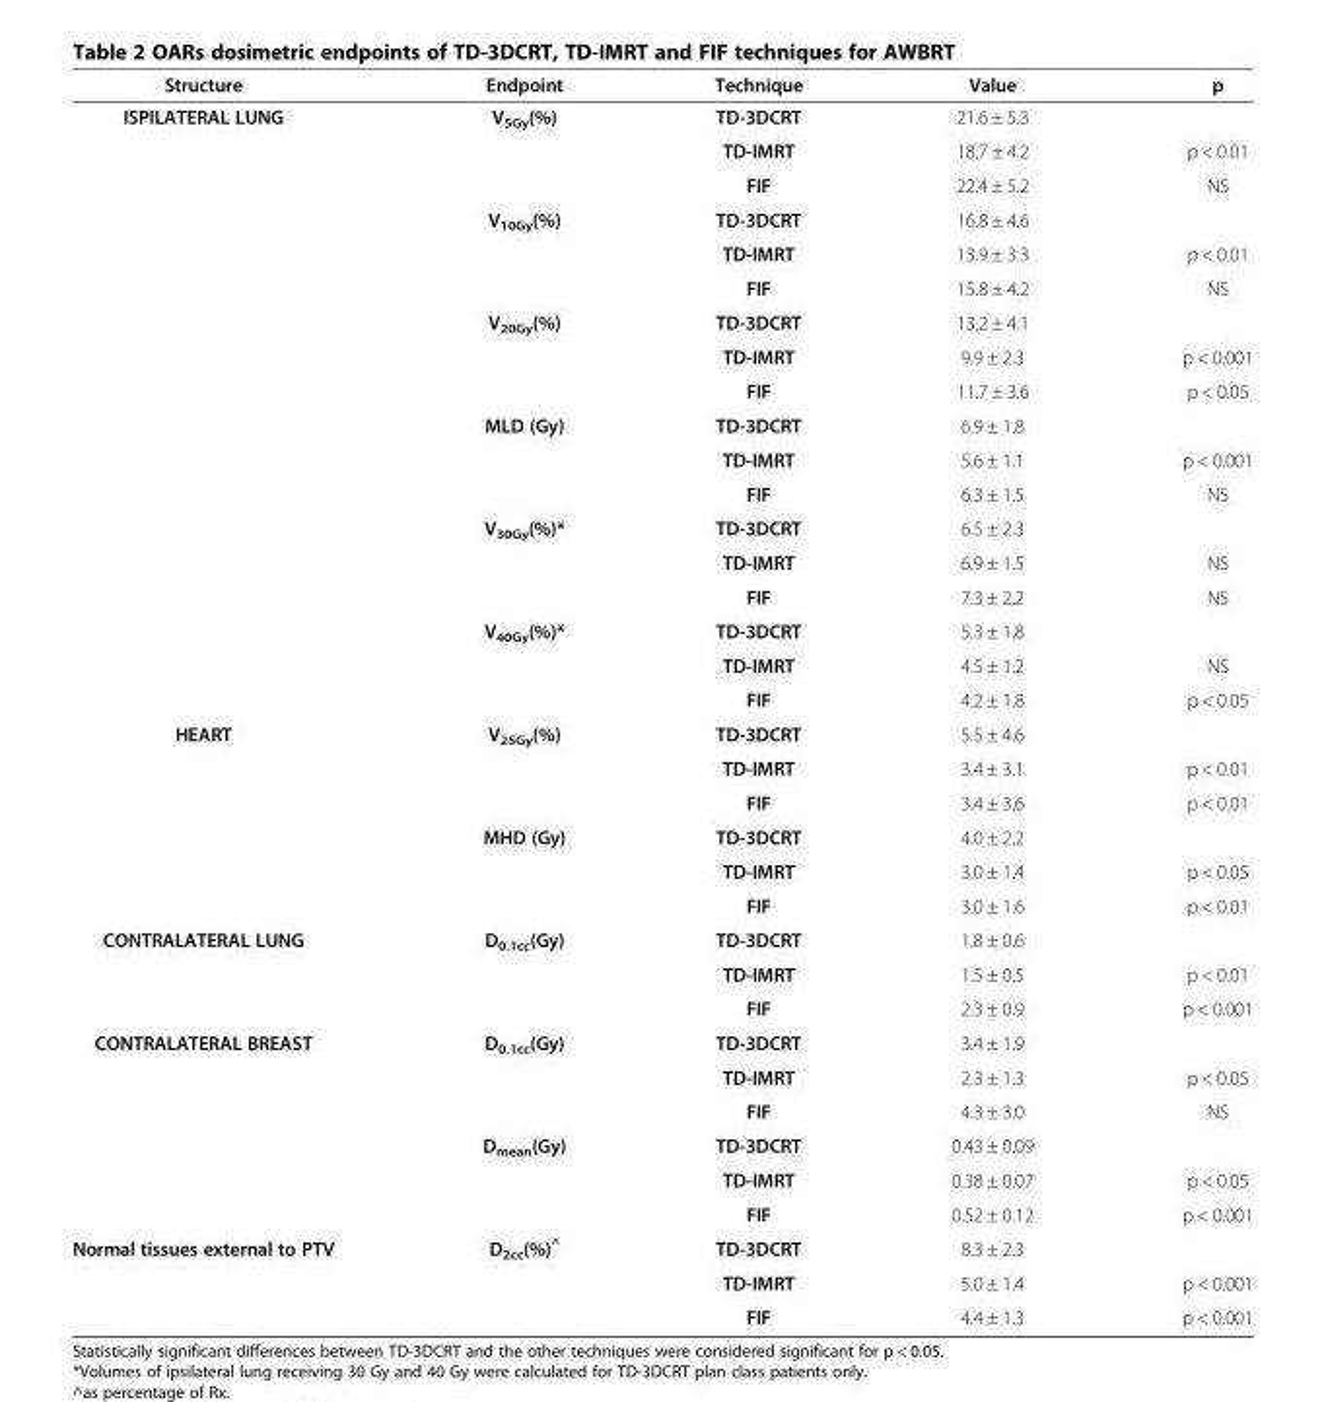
<table><thead><tr><td>Structure</td><td>Endpoint</td><td>Technique</td><td>Value</td><td>p</td></tr></thead><tbody><tr><td rowspan="18">ISPILATERAL LUNG</td><td rowspan="3">V<sub>5Gy</sub>(%)</td><td>TD-3DCRT</td><td>21.6 ± 5.3</td><td></td></tr><tr><td>TD-IMRT</td><td>18.7 ± 4.2</td><td>p &lt; 0.01</td></tr><tr><td>FIF</td><td>22.4 ± 5.2</td><td>NS</td></tr><tr><td rowspan="3">V<sub>10Gy</sub>(%)</td><td>TD-3DCRT</td><td>16.8 ± 4.6</td><td></td></tr><tr><td>TD-IMRT</td><td>13.9 ± 3.3</td><td>p &lt; 0.01</td></tr><tr><td>FIF</td><td>15.8 ± 4.2</td><td>NS</td></tr><tr><td rowspan="3">V<sub>20Gy</sub>(%)</td><td>TD-3DCRT</td><td>13.2 ± 4.1</td><td></td></tr><tr><td>TD-IMRT</td><td>9.9 ± 2.3</td><td>p &lt; 0.001</td></tr><tr><td>FIF</td><td>11.7 ± 3.6</td><td>p &lt; 0.05</td></tr><tr><td rowspan="3">MLD (Gy)</td><td>TD-3DCRT</td><td>6.9 ± 1.8</td><td></td></tr><tr><td>TD-IMRT</td><td>5.6 ± 1.1</td><td>p &lt; 0.001</td></tr><tr><td>FIF</td><td>6.3 ± 1.5</td><td>NS</td></tr><tr><td rowspan="3">V<sub>30Gy</sub>(%)*</td><td>TD-3DCRT</td><td>6.5 ± 2.3</td><td></td></tr><tr><td>TD-IMRT</td><td>6.9 ± 1.5</td><td>NS</td></tr><tr><td>FIF</td><td>7.3 ± 2.2</td><td>NS</td></tr><tr><td rowspan="3">V<sub>40Gy</sub>(%)*</td><td>TD-3DCRT</td><td>5.3 ± 1.8</td><td></td></tr><tr><td>TD-IMRT</td><td>4.5 ± 1.2</td><td>NS</td></tr><tr><td>FIF</td><td>4.2 ± 1.8</td><td>p &lt; 0.05</td></tr><tr><td rowspan="6">HEART</td><td rowspan="3">V<sub>25Gy</sub>(%)</td><td>TD-3DCRT</td><td>5.5 ± 4.6</td><td></td></tr><tr><td>TD-IMRT</td><td>3.4 ± 3.1</td><td>p &lt; 0.01</td></tr><tr><td>FIF</td><td>3.4 ± 3.6</td><td>p &lt; 0.01</td></tr><tr><td rowspan="3">MHD (Gy)</td><td>TD-3DCRT</td><td>4.0 ± 2.2</td><td></td></tr><tr><td>TD-IMRT</td><td>3.0 ± 1.4</td><td>p &lt; 0.05</td></tr><tr><td>FIF</td><td>3.0 ± 1.6</td><td>p &lt; 0.01</td></tr><tr><td rowspan="3">CONTRALATERAL LUNG</td><td rowspan="3">D<sub>0.1cc</sub>(Gy)</td><td>TD-3DCRT</td><td>1.8 ± 0.6</td><td></td></tr><tr><td>TD-IMRT</td><td>1.5 ± 0.5</td><td>p &lt; 0.01</td></tr><tr><td>FIF</td><td>2.3 ± 0.9</td><td>p &lt; 0.001</td></tr><tr><td rowspan="6">CONTRALATERAL BREAST</td><td rowspan="3">D<sub>0.1cc</sub>(Gy)</td><td>TD-3DCRT</td><td>3.4 ± 1.9</td><td></td></tr><tr><td>TD-IMRT</td><td>2.3 ± 1.3</td><td>p &lt; 0.05</td></tr><tr><td>FIF</td><td>4.3 ± 3.0</td><td>NS</td></tr><tr><td rowspan="3">D<sub>mean</sub>(Gy)</td><td>TD-3DCRT</td><td>0.43 ± 0.09</td><td></td></tr><tr><td>TD-IMRT</td><td>0.38 ± 0.07</td><td>p &lt; 0.05</td></tr><tr><td>FIF</td><td>0.52 ± 0.12</td><td>p &lt; 0.001</td></tr><tr><td rowspan="3">Normal tissues external to PTV</td><td rowspan="2">D<sub>2cc</sub>(%)<sup>^</sup></td><td>TD-3DCRT</td><td>8.3 ± 2.3</td><td></td></tr><tr><td>TD-IMRT</td><td>5.0 ± 1.4</td><td>p &lt; 0.001</td></tr><tr><td></td><td>FIF</td><td>4.4 ± 1.3</td><td>p &lt; 0.001</td></tr></tbody></table>